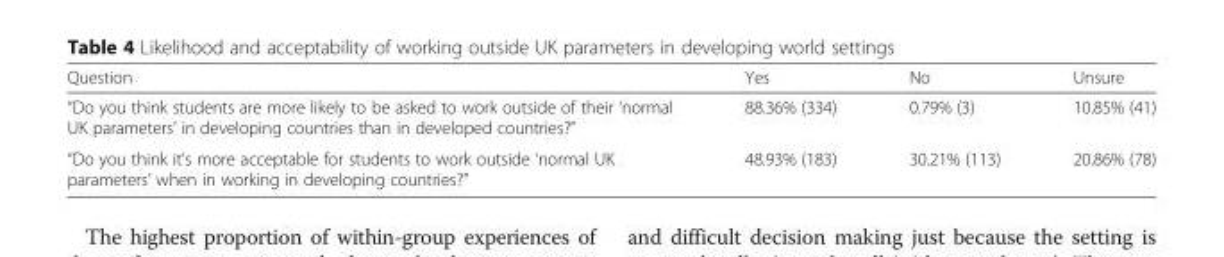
<table><thead><tr><td>Question</td><td>Yes</td><td>No</td><td>Unsure</td></tr></thead><tbody><tr><td>“Do you think students are more likely to be asked to work outside of their ‘normal UK parameters’ in developing countries than in developed countries?”</td><td>88.36% (334)</td><td>0.79% (3)</td><td>10.85% (41)</td></tr><tr><td>“Do you think it’s more acceptable for students to work outside ‘normal UK parameters’ when in working in developing countries?”</td><td>48.93% (183)</td><td>30.21% (113)</td><td>20.86% (78)</td></tr></tbody></table>